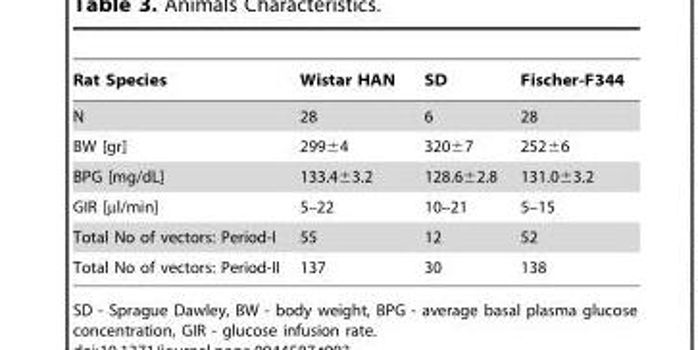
<table><thead><tr><td>Rat Species</td><td>Wistar HAN</td><td>SD</td><td>Fischer-F344</td></tr></thead><tbody><tr><td>N</td><td>28</td><td>6</td><td>28</td></tr><tr><td>BW [gr]</td><td>299±4</td><td>320±7</td><td>252±6</td></tr><tr><td>BPG [mg/dL]</td><td>133.4±3.2</td><td>128.6±2.8</td><td>131.0±3.2</td></tr><tr><td>GIR [µl/min]</td><td>5–22</td><td>10–21</td><td>5–15</td></tr><tr><td>Total No of vectors: Period-I</td><td>55</td><td>12</td><td>52</td></tr><tr><td>Total No of vectors: Period-II</td><td>137</td><td>30</td><td>138</td></tr></tbody></table>